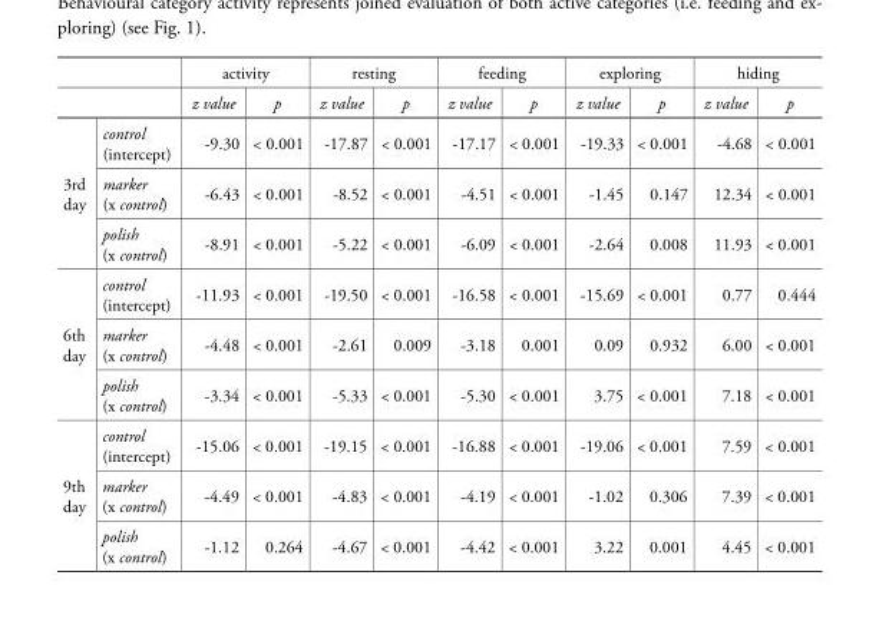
<table><thead><tr><td rowspan="2"></td><td rowspan="2"></td><td colspan="2">activity</td><td colspan="2">resting</td><td colspan="2">feeding</td><td colspan="2">exploring</td><td colspan="2">hiding</td></tr><tr><td>z value</td><td>p</td><td>z value</td><td>p</td><td>z value</td><td>p</td><td>z value</td><td>p</td><td>z value</td><td>p</td></tr></thead><tbody><tr><td rowspan="3">3rd day</td><td>control (intercept)</td><td>-9.30</td><td>&lt; 0.001</td><td>-17.87</td><td>&lt; 0.001</td><td>-17.17</td><td>&lt; 0.001</td><td>-19.33</td><td>&lt; 0.001</td><td>-4.68</td><td>&lt; 0.001</td></tr><tr><td>marker (x control)</td><td>-6.43</td><td>&lt; 0.001</td><td>-8.52</td><td>&lt; 0.001</td><td>-4.51</td><td>&lt; 0.001</td><td>-1.45</td><td>0.147</td><td>12.34</td><td>&lt; 0.001</td></tr><tr><td>polish (x control)</td><td>-8.91</td><td>&lt; 0.001</td><td>-5.22</td><td>&lt; 0.001</td><td>-6.09</td><td>&lt; 0.001</td><td>-2.64</td><td>0.008</td><td>11.93</td><td>&lt; 0.001</td></tr><tr><td rowspan="3">6th day</td><td>control (intercept)</td><td>-11.93</td><td>&lt; 0.001</td><td>-19.50</td><td>&lt; 0.001</td><td>-16.58</td><td>&lt; 0.001</td><td>-15.69</td><td>&lt; 0.001</td><td>0.77</td><td>0.444</td></tr><tr><td>marker (x control)</td><td>-4.48</td><td>&lt; 0.001</td><td>-2.61</td><td>0.009</td><td>-3.18</td><td>0.001</td><td>0.09</td><td>0.932</td><td>6.00</td><td>&lt; 0.001</td></tr><tr><td>polish (x control)</td><td>-3.34</td><td>&lt; 0.001</td><td>-5.33</td><td>&lt; 0.001</td><td>-5.30</td><td>&lt; 0.001</td><td>3.75</td><td>&lt; 0.001</td><td>7.18</td><td>&lt; 0.001</td></tr><tr><td rowspan="3">9th day</td><td>control (intercept)</td><td>-15.06</td><td>&lt; 0.001</td><td>-19.15</td><td>&lt; 0.001</td><td>-16.88</td><td>&lt; 0.001</td><td>-19.06</td><td>&lt; 0.001</td><td>7.59</td><td>&lt; 0.001</td></tr><tr><td>marker (x control)</td><td>-4.49</td><td>&lt; 0.001</td><td>-4.83</td><td>&lt; 0.001</td><td>-4.19</td><td>&lt; 0.001</td><td>-1.02</td><td>0.306</td><td>7.39</td><td>&lt; 0.001</td></tr><tr><td>polish (x control)</td><td>-1.12</td><td>0.264</td><td>-4.67</td><td>&lt; 0.001</td><td>-4.42</td><td>&lt; 0.001</td><td>3.22</td><td>0.001</td><td>4.45</td><td>&lt; 0.001</td></tr></tbody></table>